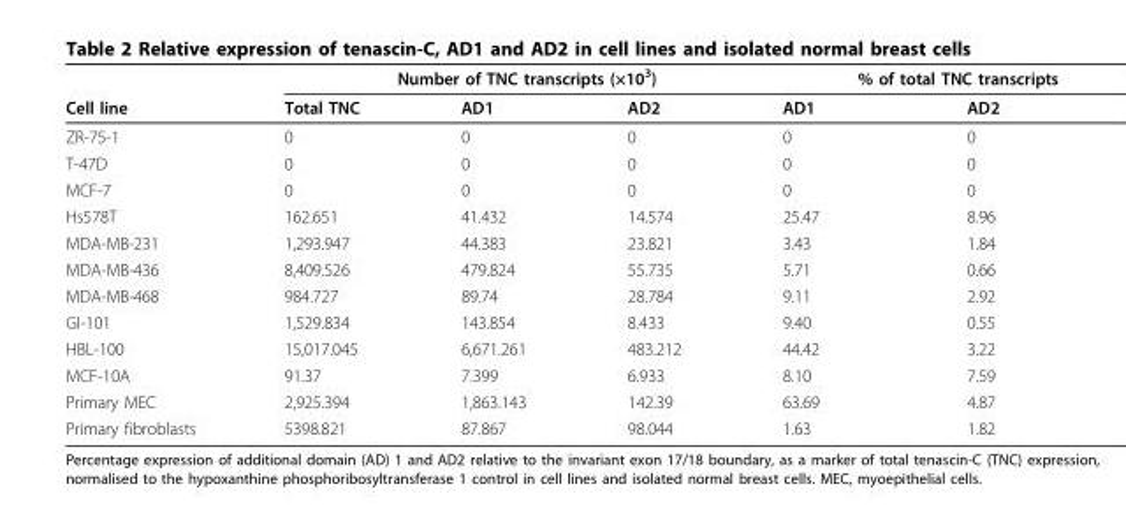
<table><thead><tr><td rowspan="2">Cell line</td><td colspan="3">Number of TNC transcripts (×10<sup>3</sup>)</td><td colspan="2">% of total TNC transcripts</td></tr><tr><td>Total TNC</td><td>AD1</td><td>AD2</td><td>AD1</td><td>AD2</td></tr></thead><tbody><tr><td>ZR-75-1</td><td>0</td><td>0</td><td>0</td><td>0</td><td>0</td></tr><tr><td>T-47D</td><td>0</td><td>0</td><td>0</td><td>0</td><td>0</td></tr><tr><td>MCF-7</td><td>0</td><td>0</td><td>0</td><td>0</td><td>0</td></tr><tr><td>Hs578T</td><td>162.651</td><td>41.432</td><td>14.574</td><td>25.47</td><td>8.96</td></tr><tr><td>MDA-MB-231</td><td>1,293.947</td><td>44.383</td><td>23.821</td><td>3.43</td><td>1.84</td></tr><tr><td>MDA-MB-436</td><td>8,409.526</td><td>479.824</td><td>55.735</td><td>5.71</td><td>0.66</td></tr><tr><td>MDA-MB-468</td><td>984.727</td><td>89.74</td><td>28.784</td><td>9.11</td><td>2.92</td></tr><tr><td>GI-101</td><td>1,529.834</td><td>143.854</td><td>8.433</td><td>9.40</td><td>0.55</td></tr><tr><td>HBL-100</td><td>15,017.045</td><td>6,671.261</td><td>483.212</td><td>44.42</td><td>3.22</td></tr><tr><td>MCF-10A</td><td>91.37</td><td>7.399</td><td>6.933</td><td>8.10</td><td>7.59</td></tr><tr><td>Primary MEC</td><td>2,925.394</td><td>1,863.143</td><td>142.39</td><td>63.69</td><td>4.87</td></tr><tr><td>Primary fibroblasts</td><td>5398.821</td><td>87.867</td><td>98.044</td><td>1.63</td><td>1.82</td></tr></tbody></table>